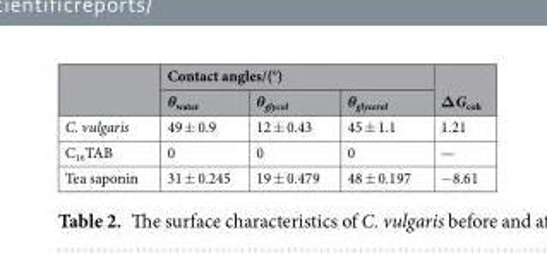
<table><thead><tr><td rowspan="2"></td><td colspan="3"><sub>Contact angles/(°)</sub></td><td rowspan="2">ΔG<sub>coh</sub></td></tr><tr><td>θ<sub>water</sub></td><td>θ<sub>glycol</sub></td><td>θ<sub>glycerol</sub></td></tr></thead><tbody><tr><td>C. vulgaris</td><td>49 ± 0.9</td><td>12 ± 0.43</td><td>45 ± 1.1</td><td>1.21</td></tr><tr><td>C<sub>16</sub>TAB</td><td>0</td><td>0</td><td>0</td><td>—</td></tr><tr><td>Tea saponin</td><td>31 ± 0.245</td><td>19 ± 0.479</td><td>48 ± 0.197</td><td>−8.61</td></tr></tbody></table>